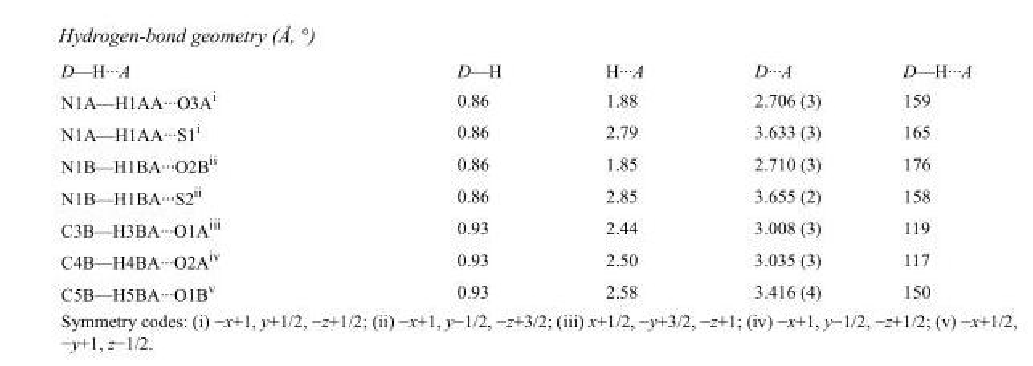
<table><tbody><tr><td>D—H···A</td><td>D—H</td><td>H···A</td><td>D···A</td><td>D—H···A</td></tr><tr><td>N1A—H1AA···O3A<sup>i</sup></td><td>0.86</td><td>1.88</td><td>2.706 (3)</td><td>159</td></tr><tr><td>N1A—H1AA···S1<sup>i</sup></td><td>0.86</td><td>2.79</td><td>3.633 (3)</td><td>165</td></tr><tr><td>N1B—H1BA···O2B<sup>ii</sup></td><td>0.86</td><td>1.85</td><td>2.710 (3)</td><td>176</td></tr><tr><td>N1B—H1BA···S2<sup>ii</sup></td><td>0.86</td><td>2.85</td><td>3.655 (2)</td><td>158</td></tr><tr><td>C3B—H3BA···O1A<sup>iii</sup></td><td>0.93</td><td>2.44</td><td>3.008 (3)</td><td>119</td></tr><tr><td>C4B—H4BA···O2A<sup>iv</sup></td><td>0.93</td><td>2.50</td><td>3.035 (3)</td><td>117</td></tr><tr><td>C5B—H5BA···O1B<sup>v</sup></td><td>0.93</td><td>2.58</td><td>3.416 (4)</td><td>150</td></tr></tbody></table>